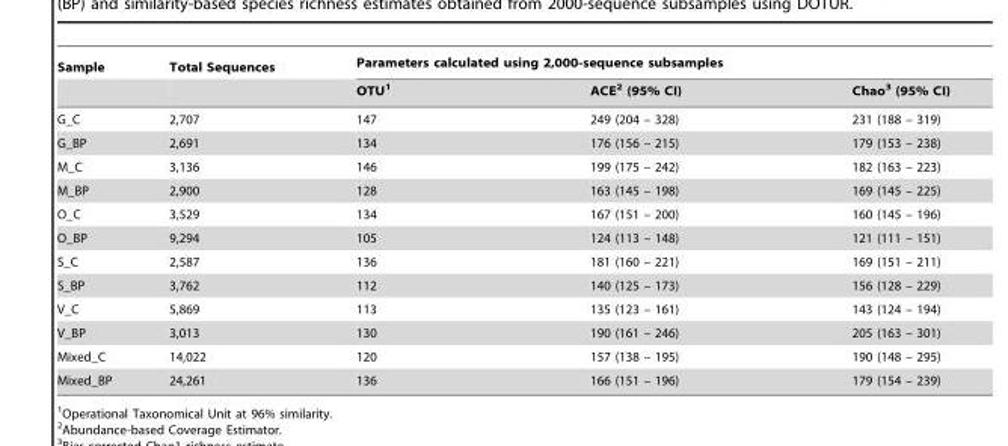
<table><thead><tr><td rowspan="2">Sample</td><td rowspan="2">Total Sequences</td><td colspan="3">Parameters calculated using 2,000-sequence subsamples</td></tr><tr><td>OTU<sup>1</sup></td><td>ACE<sup>2</sup> (95% CI)</td><td>Chao<sup>3</sup> (95% CI)</td></tr></thead><tbody><tr><td>G_C</td><td>2,707</td><td>147</td><td>249 (204 – 328)</td><td>231 (188 – 319)</td></tr><tr><td>G_BP</td><td>2,691</td><td>134</td><td>176 (156 – 215)</td><td>179 (153 – 238)</td></tr><tr><td>M_C</td><td>3,136</td><td>146</td><td>199 (175 – 242)</td><td>182 (163 – 223)</td></tr><tr><td>M_BP</td><td>2,900</td><td>128</td><td>163 (145 – 198)</td><td>169 (145 – 225)</td></tr><tr><td>O_C</td><td>3,529</td><td>134</td><td>167 (151 – 200)</td><td>160 (145 – 196)</td></tr><tr><td>O_BP</td><td>9,294</td><td>105</td><td>124 (113 – 148)</td><td>121 (111 – 151)</td></tr><tr><td>S_C</td><td>2,587</td><td>136</td><td>181 (160 – 221)</td><td>169 (151 – 211)</td></tr><tr><td>S_BP</td><td>3,762</td><td>112</td><td>140 (125 – 173)</td><td>156 (128 – 229)</td></tr><tr><td>V_C</td><td>5,869</td><td>113</td><td>135 (123 – 161)</td><td>143 (124 – 194)</td></tr><tr><td>V_BP</td><td>3,013</td><td>130</td><td>190 (161 – 246)</td><td>205 (163 – 301)</td></tr><tr><td>Mixed_C</td><td>14,022</td><td>120</td><td>157 (138 – 195)</td><td>190 (148 – 295)</td></tr><tr><td>Mixed_BP</td><td>24,261</td><td>136</td><td>166 (151 – 196)</td><td>179 (154 – 239)</td></tr></tbody></table>